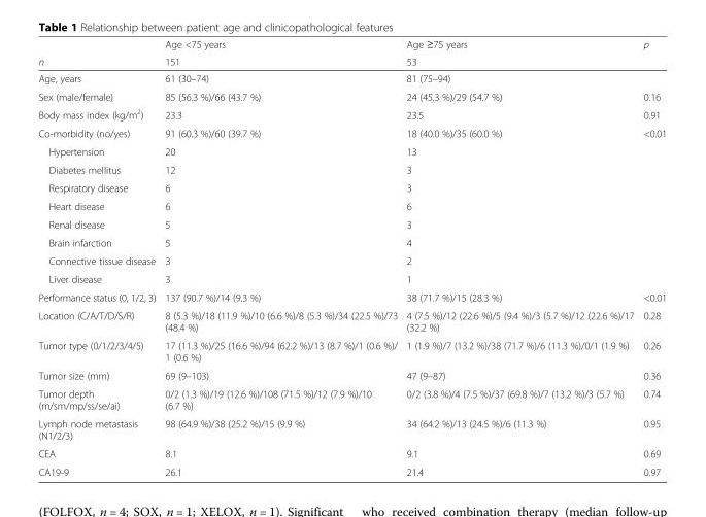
<table><thead><tr><td rowspan="2">n</td><td rowspan="2">Age &lt;75 years 151</td><td rowspan="2">Age ≥75 years 53</td><td rowspan="2">p</td></tr><tr></tr></thead><tbody><tr><td>Age, years</td><td>61 (30–74)</td><td>81 (75–94)</td><td></td></tr><tr><td>Sex (male/female)</td><td>85 (56.3 %)/66 (43.7 %)</td><td>24 (45.3 %)/29 (54.7 %)</td><td>0.16</td></tr><tr><td>Body mass index (kg/m<sup>2</sup>)</td><td>23.3</td><td>23.5</td><td>0.91</td></tr><tr><td>Co-morbidity (no/yes)</td><td>91 (60.3 %)/60 (39.7 %)</td><td>18 (40.0 %)/35 (60.0 %)</td><td>&lt;0.01</td></tr><tr><td>Hypertension</td><td>20</td><td>13</td><td></td></tr><tr><td>Diabetes mellitus</td><td>12</td><td>3</td><td></td></tr><tr><td>Respiratory disease</td><td>6</td><td>3</td><td></td></tr><tr><td>Heart disease</td><td>6</td><td>6</td><td></td></tr><tr><td>Renal disease</td><td>5</td><td>3</td><td></td></tr><tr><td>Brain infarction</td><td>5</td><td>4</td><td></td></tr><tr><td>Connective tissue disease</td><td>3</td><td>2</td><td></td></tr><tr><td>Liver disease</td><td>3</td><td>1</td><td></td></tr><tr><td>Performance status (0, 1/2, 3)</td><td>137 (90.7 %)/14 (9.3 %)</td><td>38 (71.7 %)/15 (28.3 %)</td><td>&lt;0.01</td></tr><tr><td>Location (C/A/T/D/S/R)</td><td>8 (5.3 %)/18 (11.9 %)/10 (6.6 %)/8 (5.3 %)/34 (22.5 %)/73 (48.4 %)</td><td>4 (7.5 %)/12 (22.6 %)/5 (9.4 %)/3 (5.7 %)/12 (22.6 %)/17 (32.2 %)</td><td>0.28</td></tr><tr><td>Tumor type (0/1/2/3/4/5)</td><td>17 (11.3 %)/25 (16.6 %)/94 (62.2 %)/13 (8.7 %)/1 (0.6 %)/ 1 (0.6 %)</td><td>1 (1.9 %)/7 (13.2 %)/38 (71.7 %)/6 (11.3 %)/0/1 (1.9 %)</td><td>0.26</td></tr><tr><td>Tumor size (mm)</td><td>69 (9–103)</td><td>47 (9–87)</td><td>0.36</td></tr><tr><td>Tumor depth (m/sm/mp/ss/se/ai)</td><td>0/2 (1.3 %)/19 (12.6 %)/108 (71.5 %)/12 (7.9 %)/10 (6.7 %)</td><td>0/2 (3.8 %)/4 (7.5 %)/37 (69.8 %)/7 (13.2 %)/3 (5.7 %)</td><td>0.74</td></tr><tr><td>Lymph node metastasis (N1/2/3)</td><td>98 (64.9 %)/38 (25.2 %)/15 (9.9 %)</td><td>34 (64.2 %)/13 (24.5 %)/6 (11.3 %)</td><td>0.95</td></tr><tr><td>CEA</td><td>8.1</td><td>9.1</td><td>0.69</td></tr><tr><td>CA19-9</td><td>26.1</td><td>21.4</td><td>0.97</td></tr></tbody></table>